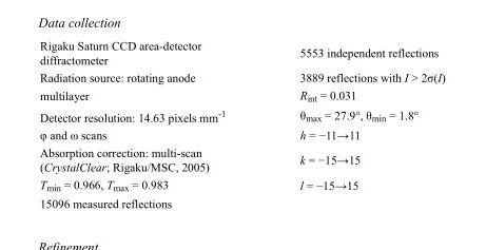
<table><tbody><tr><td>Rigaku Saturn CCD area-detector diffractometer</td><td>5553 independent reflections</td></tr><tr><td>Radiation source: rotating anode</td><td>3889 reflections with I &gt; 2σ(I)</td></tr><tr><td>multilayer</td><td>R<sub>int</sub> = 0.031</td></tr><tr><td>Detector resolution: 14.63 pixels mm<sup>-1</sup></td><td>θ<sub>max</sub> = 27.9°, θ<sub>min</sub> = 1.8°</td></tr><tr><td>φ and ω scans</td><td>h = −11→11</td></tr><tr><td>Absorption correction: multi-scan (CrystalClear; Rigaku/MSC, 2005)</td><td>k = −15→15</td></tr><tr><td>T<sub>min</sub> = 0.966, T<sub>max</sub> = 0.983</td><td>l = −15→15</td></tr><tr><td>15096 measured reflections</td><td></td></tr></tbody></table>